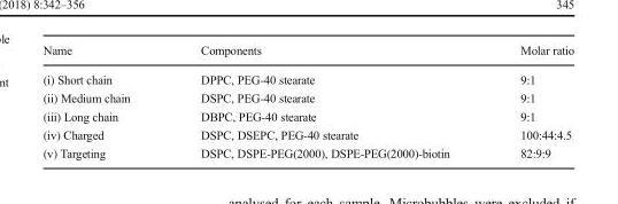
<table><thead><tr><td>Name</td><td>Components</td><td>Molar ratio</td></tr></thead><tbody><tr><td>(i) Short chain</td><td>DPPC, PEG-40 stearate</td><td>9:1</td></tr><tr><td>(ii) Medium chain</td><td>DSPC, PEG-40 stearate</td><td>9:1</td></tr><tr><td>(iii) Long chain</td><td>DBPC, PEG-40 stearate</td><td>9:1</td></tr><tr><td>(iv) Charged</td><td>DSPC, DSEPC, PEG-40 stearate</td><td>100:44:4.5</td></tr><tr><td>(v) Targeting</td><td>DSPC, DSPE-PEG(2000), DSPE-PEG(2000)-biotin</td><td>82:9:9</td></tr></tbody></table>